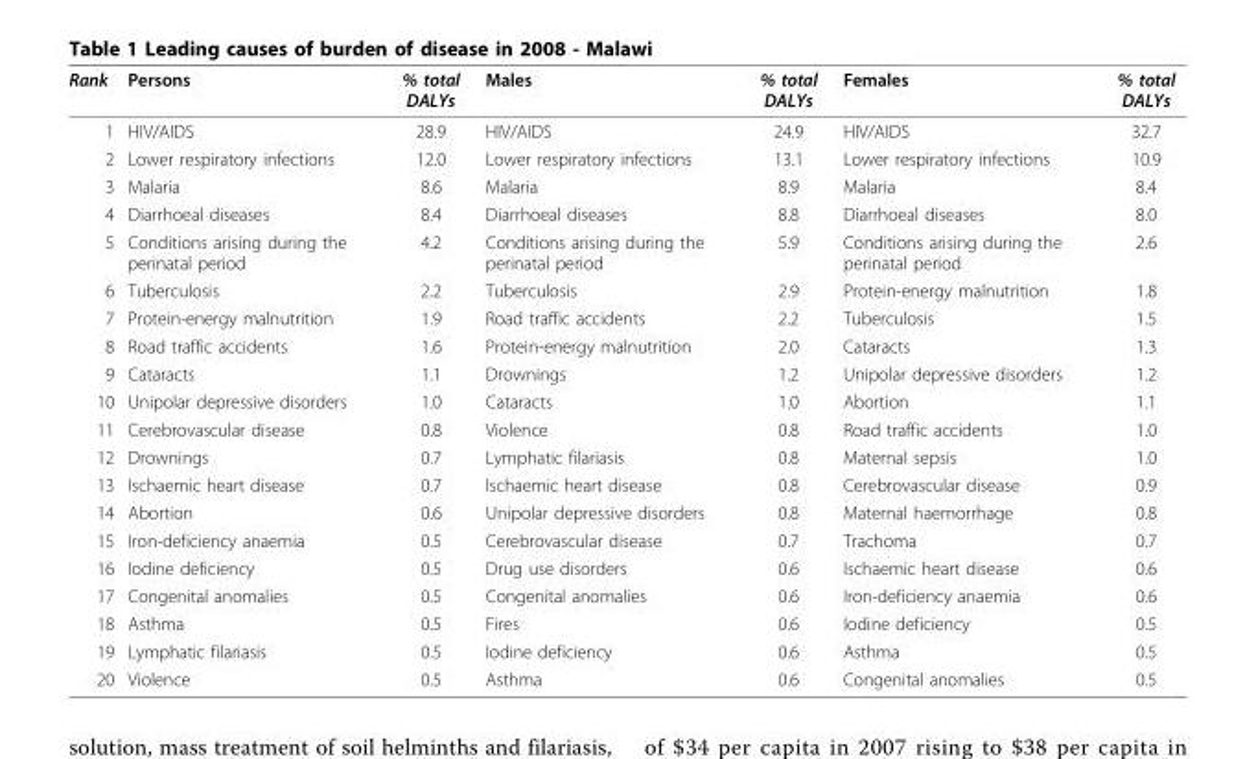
<table><thead><tr><td>Rank</td><td>Persons</td><td>% total DALYs</td><td>Males</td><td>% total DALYs</td><td>Females</td><td>% total DALYs</td></tr></thead><tbody><tr><td>1</td><td>HIV/AIDS</td><td>28.9</td><td>HIV/AIDS</td><td>24.9</td><td>HIV/AIDS</td><td>32.7</td></tr><tr><td>2</td><td>Lower respiratory infections</td><td>12.0</td><td>Lower respiratory infections</td><td>13.1</td><td>Lower respiratory infections</td><td>10.9</td></tr><tr><td>3</td><td>Malaria</td><td>8.6</td><td>Malaria</td><td>8.9</td><td>Malaria</td><td>8.4</td></tr><tr><td>4</td><td>Diarrhoeal diseases</td><td>8.4</td><td>Diarrhoeal diseases</td><td>8.8</td><td>Diarrhoeal diseases</td><td>8.0</td></tr><tr><td>5</td><td>Conditions arising during the perinatal period</td><td>4.2</td><td>Conditions arising during the perinatal period</td><td>5.9</td><td>Conditions arising during the perinatal period</td><td>2.6</td></tr><tr><td>6</td><td>Tuberculosis</td><td>2.2</td><td>Tuberculosis</td><td>2.9</td><td>Protein-energy malnutrition</td><td>1.8</td></tr><tr><td>7</td><td>Protein-energy malnutrition</td><td>1.9</td><td>Road traffic accidents</td><td>2.2</td><td>Tuberculosis</td><td>1.5</td></tr><tr><td>8</td><td>Road traffic accidents</td><td>1.6</td><td>Protein-energy malnutrition</td><td>2.0</td><td>Cataracts</td><td>1.3</td></tr><tr><td>9</td><td>Cataracts</td><td>1.1</td><td>Drownings</td><td>1.2</td><td>Unipolar depressive disorders</td><td>1.2</td></tr><tr><td>10</td><td>Unipolar depressive disorders</td><td>1.0</td><td>Cataracts</td><td>1.0</td><td>Abortion</td><td>1.1</td></tr><tr><td>11</td><td>Cerebrovascular disease</td><td>0.8</td><td>Violence</td><td>0.8</td><td>Road traffic accidents</td><td>1.0</td></tr><tr><td>12</td><td>Drownings</td><td>0.7</td><td>Lymphatic filariasis</td><td>0.8</td><td>Maternal sepsis</td><td>1.0</td></tr><tr><td>13</td><td>Ischaemic heart disease</td><td>0.7</td><td>Ischaemic heart disease</td><td>0.8</td><td>Cerebrovascular disease</td><td>0.9</td></tr><tr><td>14</td><td>Abortion</td><td>0.6</td><td>Unipolar depressive disorders</td><td>0.8</td><td>Maternal haemorrhage</td><td>0.8</td></tr><tr><td>15</td><td>Iron-deficiency anaemia</td><td>0.5</td><td>Cerebrovascular disease</td><td>0.7</td><td>Trachoma</td><td>0.7</td></tr><tr><td>16</td><td>Iodine deficiency</td><td>0.5</td><td>Drug use disorders</td><td>0.6</td><td>Ischaemic heart disease</td><td>0.6</td></tr><tr><td>17</td><td>Congenital anomalies</td><td>0.5</td><td>Congenital anomalies</td><td>0.6</td><td>Iron-deficiency anaemia</td><td>0.6</td></tr><tr><td>18</td><td>Asthma</td><td>0.5</td><td>Fires</td><td>0.6</td><td>Iodine deficiency</td><td>0.5</td></tr><tr><td>19</td><td>Lymphatic filariasis</td><td>0.5</td><td>Iodine deficiency</td><td>0.6</td><td>Asthma</td><td>0.5</td></tr><tr><td>20</td><td>Violence</td><td>0.5</td><td>Asthma</td><td>0.6</td><td>Congenital anomalies</td><td>0.5</td></tr></tbody></table>